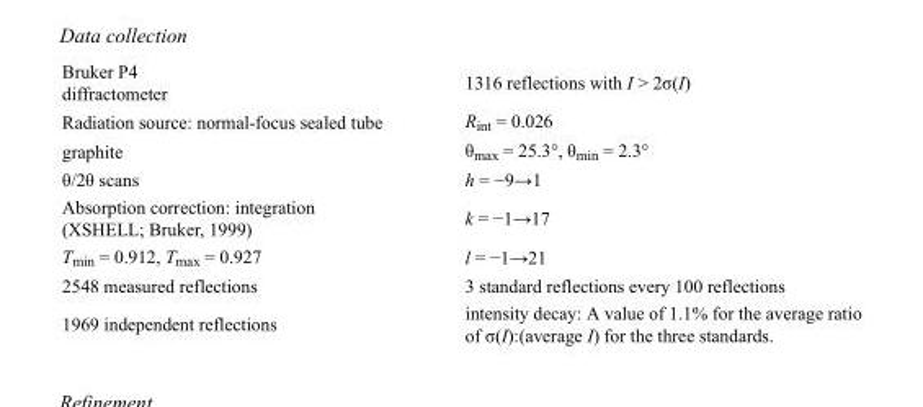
<table><tbody><tr><td>Bruker P4 diffractometer</td><td>1316 reflections with I &gt; 2σ(I)</td></tr><tr><td>Radiation source: normal-focus sealed tube</td><td>R<sub>int</sub> = 0.026</td></tr><tr><td>graphite</td><td>θ<sub>max</sub> = 25.3°, θ<sub>min</sub> = 2.3°</td></tr><tr><td>θ/2θ scans</td><td>h = −9→1</td></tr><tr><td>Absorption correction: integration (XSHELL; Bruker, 1999)</td><td>k = −1→17</td></tr><tr><td>T<sub>min</sub> = 0.912, T<sub>max</sub> = 0.927</td><td>l = −1→21</td></tr><tr><td>2548 measured reflections</td><td>3 standard reflections every 100 reflections</td></tr><tr><td>1969 independent reflections</td><td>intensity decay: A value of 1.1% for the average ratio of σ(I):(average I) for the three standards.</td></tr></tbody></table>